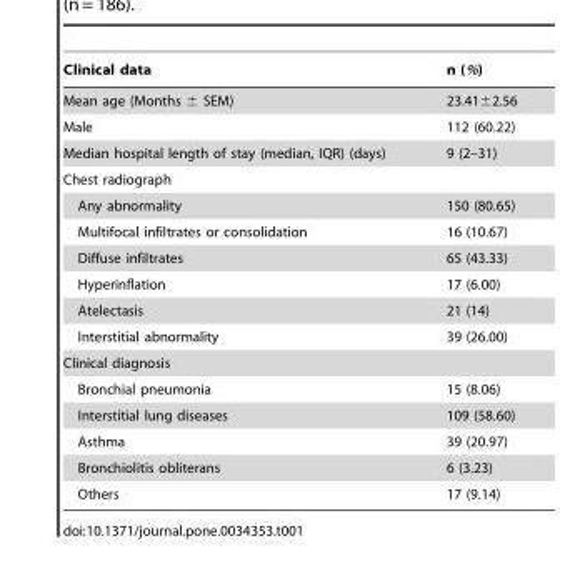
<table><thead><tr><td>Clinical data</td><td>n (%)</td></tr></thead><tbody><tr><td>Mean age (Months ± SEM)</td><td>23.41±2.56</td></tr><tr><td>Male</td><td>112 (60.22)</td></tr><tr><td>Median hospital length of stay (median, IQR) (days)</td><td>9 (2–31)</td></tr><tr><td colspan="2">Chest radiograph</td></tr><tr><td>Any abnormality</td><td>150 (80.65)</td></tr><tr><td>Multifocal infiltrates or consolidation</td><td>16 (10.67)</td></tr><tr><td>Diffuse infiltrates</td><td>65 (43.33)</td></tr><tr><td>Hyperinflation</td><td>17 (6.00)</td></tr><tr><td>Atelectasis</td><td>21 (14)</td></tr><tr><td>Interstitial abnormality</td><td>39 (26.00)</td></tr><tr><td colspan="2">Clinical diagnosis</td></tr><tr><td>Bronchial pneumonia</td><td>15 (8.06)</td></tr><tr><td>Interstitial lung diseases</td><td>109 (58.60)</td></tr><tr><td>Asthma</td><td>39 (20.97)</td></tr><tr><td>Bronchiolitis obliterans</td><td>6 (3.23)</td></tr><tr><td>Others</td><td>17 (9.14)</td></tr></tbody></table>